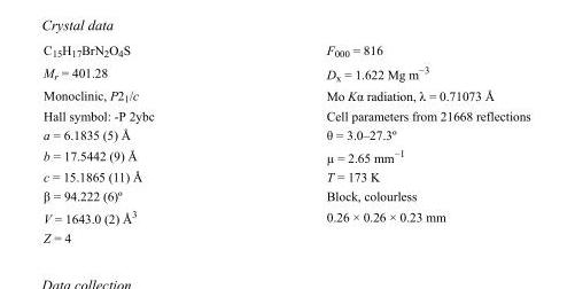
<table><tbody><tr><td>C<sub>15</sub>H<sub>17</sub>BrN<sub>2</sub>O<sub>4</sub>S</td><td>F000 = 816</td></tr><tr><td>M<sub>r</sub> = 401.28</td><td>D<sub>x</sub> = 1.622 Mg m<sup>−3</sup></td></tr><tr><td>Monoclinic, P2<sub>1</sub>/c</td><td>Mo Kα radiation, λ = 0.71073 Å</td></tr><tr><td>Hall symbol: -P 2ybc</td><td>Cell parameters from 21668 reflections</td></tr><tr><td>a = 6.1835 (5) Å</td><td>θ = 3.0–27.3º</td></tr><tr><td>b = 17.5442 (9) Å</td><td>µ = 2.65 mm<sup>−1</sup></td></tr><tr><td>c = 15.1865 (11) Å</td><td>T = 173 K</td></tr><tr><td>β = 94.222 (6)º</td><td>Block, colourless</td></tr><tr><td>V = 1643.0 (2) Å<sup>3</sup></td><td>0.26 × 0.26 × 0.23 mm</td></tr><tr><td>Z = 4</td><td></td></tr></tbody></table>